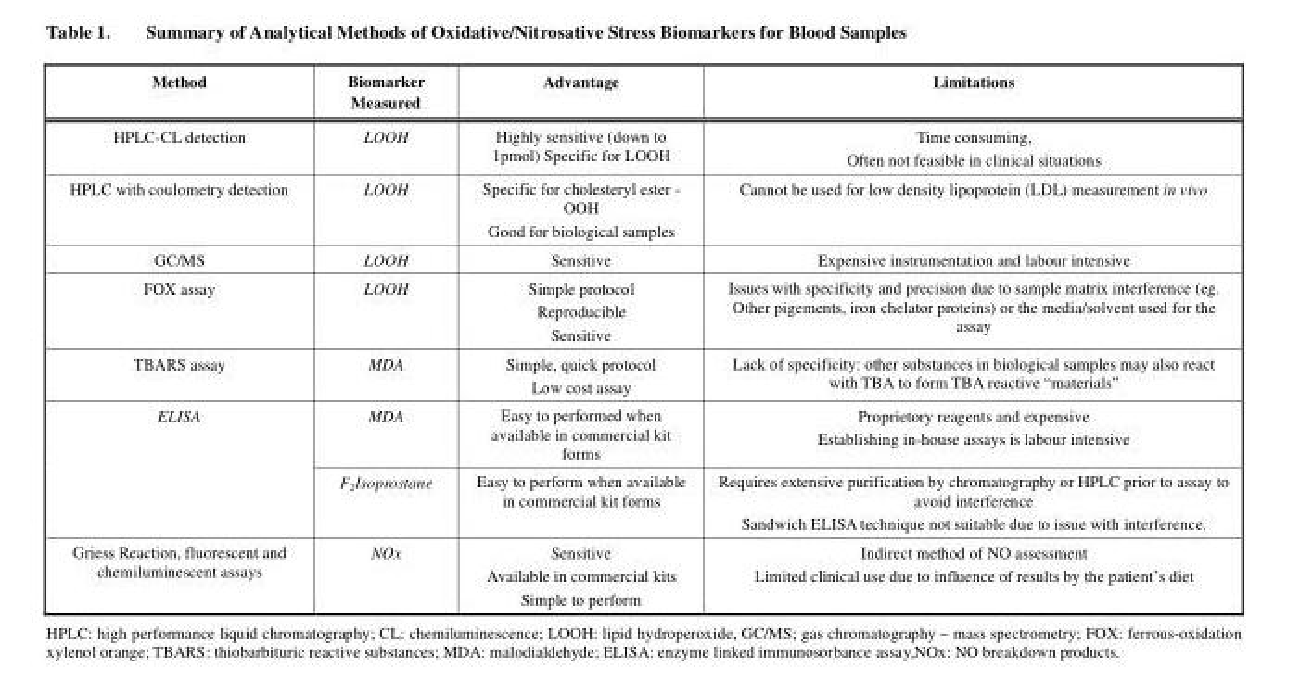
<table><thead><tr><td>Method</td><td>Biomarker Measured</td><td>Advantage</td><td>Limitations</td></tr></thead><tbody><tr><td>HPLC-CL detection</td><td>LOOH</td><td>Highly sensitive (down to 1pmol) Specific for LOOH</td><td>Time consuming, Often not feasible in clinical situations</td></tr><tr><td>HPLC with coulometry detection</td><td>LOOH</td><td>Specific for cholesteryl ester - OOH Good for biological samples</td><td>Cannot be used for low density lipoprotein (LDL) measurement in vivo</td></tr><tr><td>GC/MS</td><td>LOOH</td><td>Sensitive</td><td>Expensive instrumentation and labour intensive</td></tr><tr><td>FOX assay</td><td>LOOH</td><td>Simple protocol Reproducible Sensitive</td><td>Issues with specificity and precision due to sample matrix interference (eg. Other pigements, iron chelator proteins) or the media/solvent used for the assay</td></tr><tr><td>TBARS assay</td><td>MDA</td><td>Simple, quick protocol Low cost assay</td><td>Lack of specificity: other substances in biological samples may also react with TBA to form TBA reactive “materials”</td></tr><tr><td rowspan="2">ELISA</td><td>MDA</td><td>Easy to performed when available in commercial kit forms</td><td>Proprietory reagents and expensive Establishing in-house assays is labour intensive</td></tr><tr><td>F<sub>2</sub>Isoprostane</td><td>Easy to perform when available in commercial kit forms</td><td>Requires extensive purification by chromatography or HPLC prior to assay to avoid interference Sandwich ELISA technique not suitable due to issue with interference.</td></tr><tr><td>Griess Reaction, fluorescent and chemiluminescent assays</td><td>NOx</td><td>Sensitive Available in commercial kits Simple to perform</td><td>Indirect method of NO assessment Limited clinical use due to influence of results by the patient’s diet</td></tr></tbody></table>